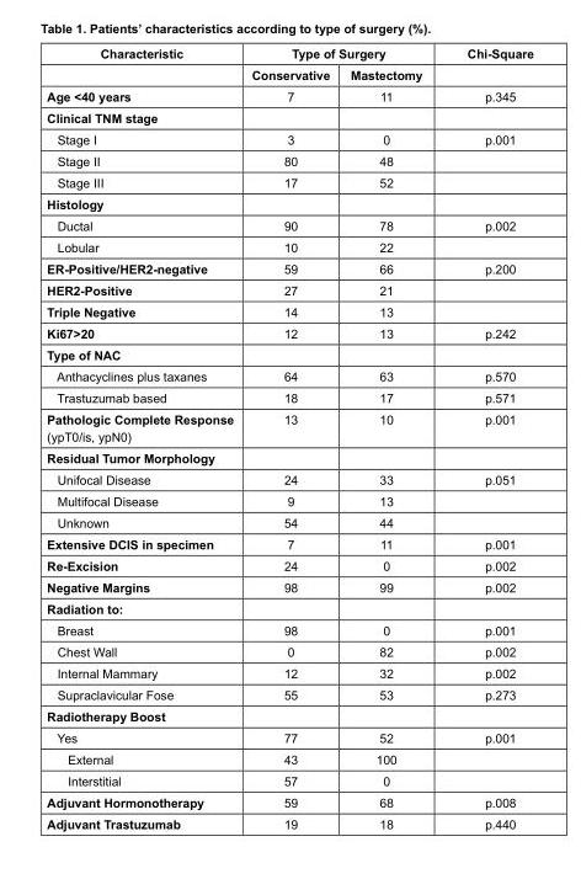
<table><thead><tr><td rowspan="2">Characteristic</td><td colspan="2">Type of Surgery</td><td rowspan="2">Chi-Square</td></tr><tr><td>Conservative</td><td>Mastectomy</td></tr></thead><tbody><tr><td>Age &lt;40 years</td><td>7</td><td>11</td><td>p.345</td></tr><tr><td colspan="4">Clinical TNM stage</td></tr><tr><td>Stage I</td><td>3</td><td>0</td><td>p.001</td></tr><tr><td>Stage II</td><td>80</td><td>48</td><td></td></tr><tr><td>Stage III</td><td>17</td><td>52</td><td></td></tr><tr><td colspan="4">Histology</td></tr><tr><td>Ductal</td><td>90</td><td>78</td><td>p.002</td></tr><tr><td>Lobular</td><td>10</td><td>22</td><td></td></tr><tr><td>ER-Positive/HER2-negative</td><td>59</td><td>66</td><td>p.200</td></tr><tr><td>HER2-Positive</td><td>27</td><td>21</td><td></td></tr><tr><td>Triple Negative</td><td>14</td><td>13</td><td></td></tr><tr><td>Ki67&gt;20</td><td>12</td><td>13</td><td>p.242</td></tr><tr><td colspan="4">Type of NAC</td></tr><tr><td>Anthacyclines plus taxanes</td><td>64</td><td>63</td><td>p.570</td></tr><tr><td>Trastuzumab based</td><td>18</td><td>17</td><td>p.571</td></tr><tr><td>Pathologic Complete Response (ypT0/is, ypN0)</td><td>13</td><td>10</td><td>p.001</td></tr><tr><td colspan="4">Residual Tumor Morphology</td></tr><tr><td>Unifocal Disease</td><td>24</td><td>33</td><td>p.051</td></tr><tr><td>Multifocal Disease</td><td>9</td><td>13</td><td></td></tr><tr><td>Unknown</td><td>54</td><td>44</td><td></td></tr><tr><td>Extensive DCIS in specimen</td><td>7</td><td>11</td><td>p.001</td></tr><tr><td>Re-Excision</td><td>24</td><td>0</td><td>p.002</td></tr><tr><td>Negative Margins</td><td>98</td><td>99</td><td>p.002</td></tr><tr><td colspan="4">Radiation to:</td></tr><tr><td>Breast</td><td>98</td><td>0</td><td>p.001</td></tr><tr><td>Chest Wall</td><td>0</td><td>82</td><td>p.002</td></tr><tr><td>Internal Mammary</td><td>12</td><td>32</td><td>p.002</td></tr><tr><td>Supraclavicular Fose</td><td>55</td><td>53</td><td>p.273</td></tr><tr><td colspan="4">Radiotherapy Boost</td></tr><tr><td>Yes</td><td>77</td><td>52</td><td>p.001</td></tr><tr><td>External</td><td>43</td><td>100</td><td></td></tr><tr><td>Interstitial</td><td>57</td><td>0</td><td></td></tr><tr><td>Adjuvant Hormonotherapy</td><td>59</td><td>68</td><td>p.008</td></tr><tr><td>Adjuvant Trastuzumab</td><td>19</td><td>18</td><td>p.440</td></tr></tbody></table>